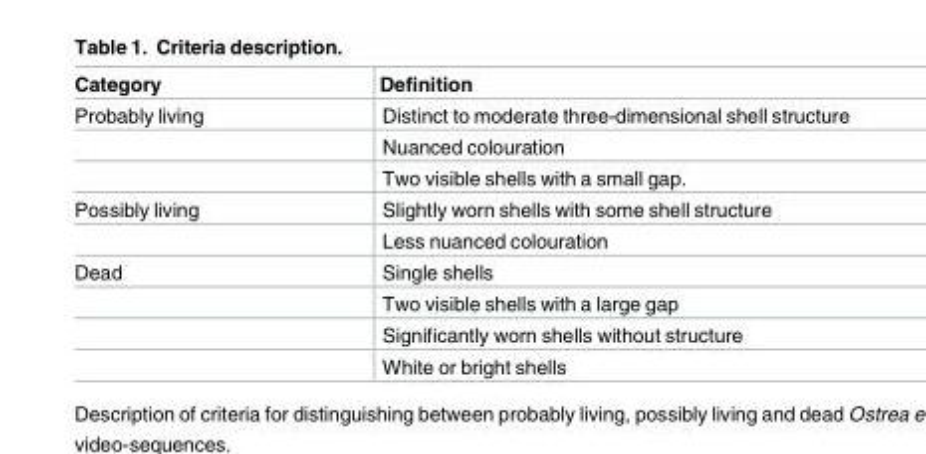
<table><thead><tr><td>Category</td><td>Definition</td></tr></thead><tbody><tr><td rowspan="3">Probably living</td><td>Distinct to moderate three-dimensional shell structure</td></tr><tr><td>Nuanced colouration</td></tr><tr><td>Two visible shells with a small gap.</td></tr><tr><td rowspan="2">Possibly living</td><td>Slightly worn shells with some shell structure</td></tr><tr><td>Less nuanced colouration</td></tr><tr><td rowspan="4">Dead</td><td>Single shells</td></tr><tr><td>Two visible shells with a large gap</td></tr><tr><td>Significantly worn shells without structure</td></tr><tr><td>White or bright shells</td></tr></tbody></table>